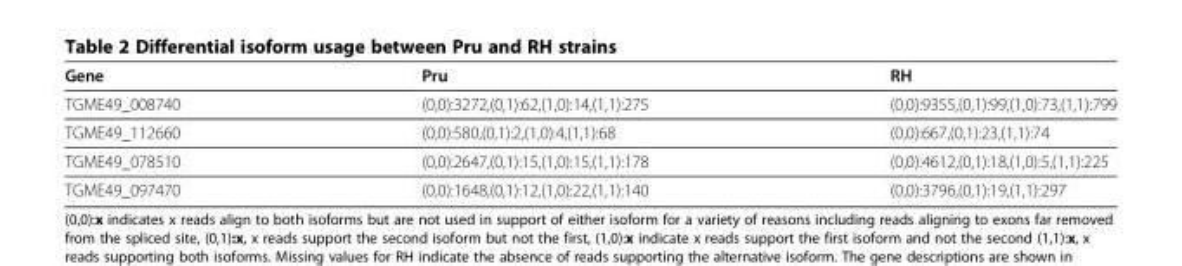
<table><thead><tr><td>Gene</td><td>Pru</td><td>RH</td></tr></thead><tbody><tr><td>TGME49_008740</td><td>(0,0):3272,(0,1):62,(1,0):14,(1,1):275</td><td>(0,0):9355,(0,1):99,(1,0):73,(1,1):799</td></tr><tr><td>TGME49_112660</td><td>(0,0):580,(0,1):2,(1,0):4,(1,1):68</td><td>(0,0):667,(0,1):23,(1,1):74</td></tr><tr><td>TGME49_078510</td><td>(0,0):2647,(0,1):15,(1,0):15,(1,1):178</td><td>(0,0):4612,(0,1):18,(1,0):5,(1,1):225</td></tr><tr><td>TGME49_097470</td><td>(0,0):1648,(0,1):12,(1,0):22,(1,1):140</td><td>(0,0):3796,(0,1):19,(1,1):297</td></tr></tbody></table>